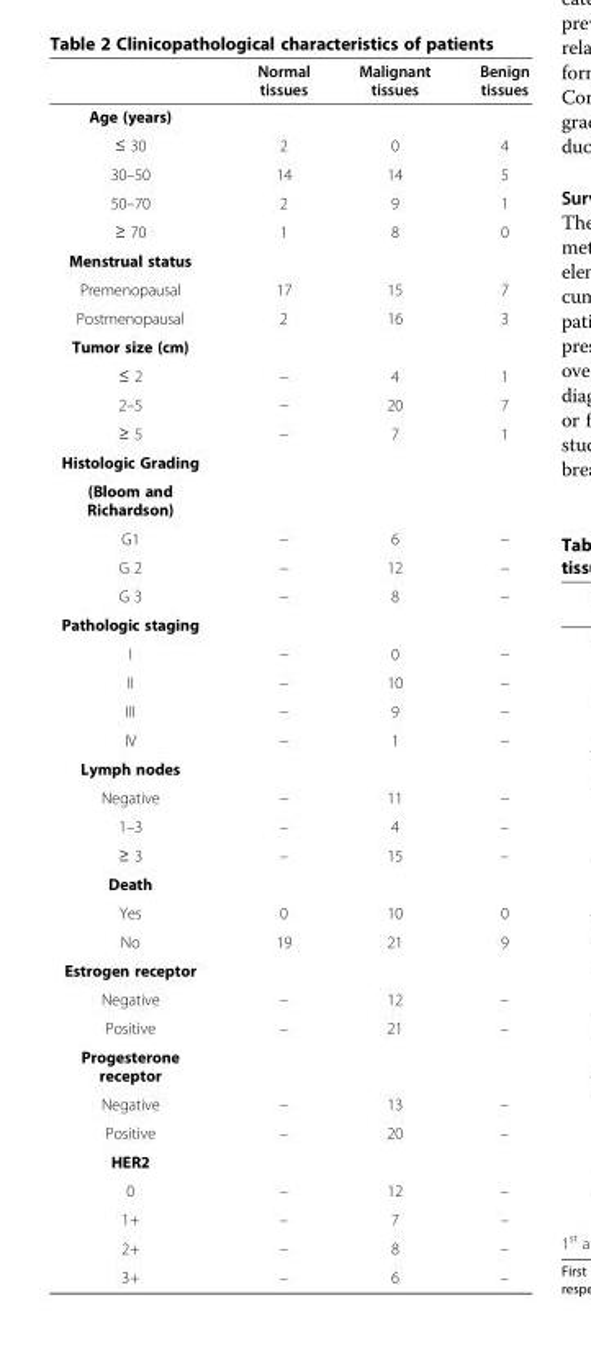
<table><thead><tr><td></td><td>Normal tissues</td><td>Malignant tissues</td><td>Benign tissues</td></tr></thead><tbody><tr><td colspan="4">Age (years)</td></tr><tr><td>≤ 30</td><td>2</td><td>0</td><td>4</td></tr><tr><td>30–50</td><td>14</td><td>14</td><td>5</td></tr><tr><td>50–70</td><td>2</td><td>9</td><td>1</td></tr><tr><td>≥ 70</td><td>1</td><td>8</td><td>0</td></tr><tr><td colspan="4">Menstrual status</td></tr><tr><td>Premenopausal</td><td>17</td><td>15</td><td>7</td></tr><tr><td>Postmenopausal</td><td>2</td><td>16</td><td>3</td></tr><tr><td colspan="4">Tumor size (cm)</td></tr><tr><td>≤ 2</td><td>−</td><td>4</td><td>1</td></tr><tr><td>2–5</td><td>−</td><td>20</td><td>7</td></tr><tr><td>≥ 5</td><td>−</td><td>7</td><td>1</td></tr><tr><td colspan="4">Histologic Grading</td></tr><tr><td colspan="4">(Bloom and Richardson)</td></tr><tr><td>G1</td><td>−</td><td>6</td><td>−</td></tr><tr><td>G 2</td><td>−</td><td>12</td><td>−</td></tr><tr><td>G 3</td><td>−</td><td>8</td><td>−</td></tr><tr><td colspan="4">Pathologic staging</td></tr><tr><td>I</td><td>−</td><td>0</td><td>−</td></tr><tr><td>II</td><td>−</td><td>10</td><td>−</td></tr><tr><td>III</td><td>−</td><td>9</td><td>−</td></tr><tr><td>IV</td><td>−</td><td>1</td><td>−</td></tr><tr><td colspan="4">Lymph nodes</td></tr><tr><td>Negative</td><td>−</td><td>11</td><td>−</td></tr><tr><td>1–3</td><td>–</td><td>4</td><td>–</td></tr><tr><td>≥ 3</td><td>–</td><td>15</td><td>–</td></tr><tr><td colspan="4">Death</td></tr><tr><td>Yes</td><td>0</td><td>10</td><td>0</td></tr><tr><td>No</td><td>19</td><td>21</td><td>9</td></tr><tr><td colspan="4">Estrogen receptor</td></tr><tr><td>Negative</td><td>–</td><td>12</td><td>–</td></tr><tr><td>Positive</td><td>–</td><td>21</td><td>–</td></tr><tr><td colspan="4">Progesterone receptor</td></tr><tr><td>Negative</td><td>–</td><td>13</td><td>–</td></tr><tr><td>Positive</td><td>–</td><td>20</td><td>–</td></tr><tr><td colspan="4">HER2</td></tr><tr><td>0</td><td>–</td><td>12</td><td>–</td></tr><tr><td>1+</td><td>–</td><td>7</td><td>–</td></tr><tr><td>2+</td><td>–</td><td>8</td><td>–</td></tr><tr><td>3+</td><td>–</td><td>6</td><td>–</td></tr></tbody></table>